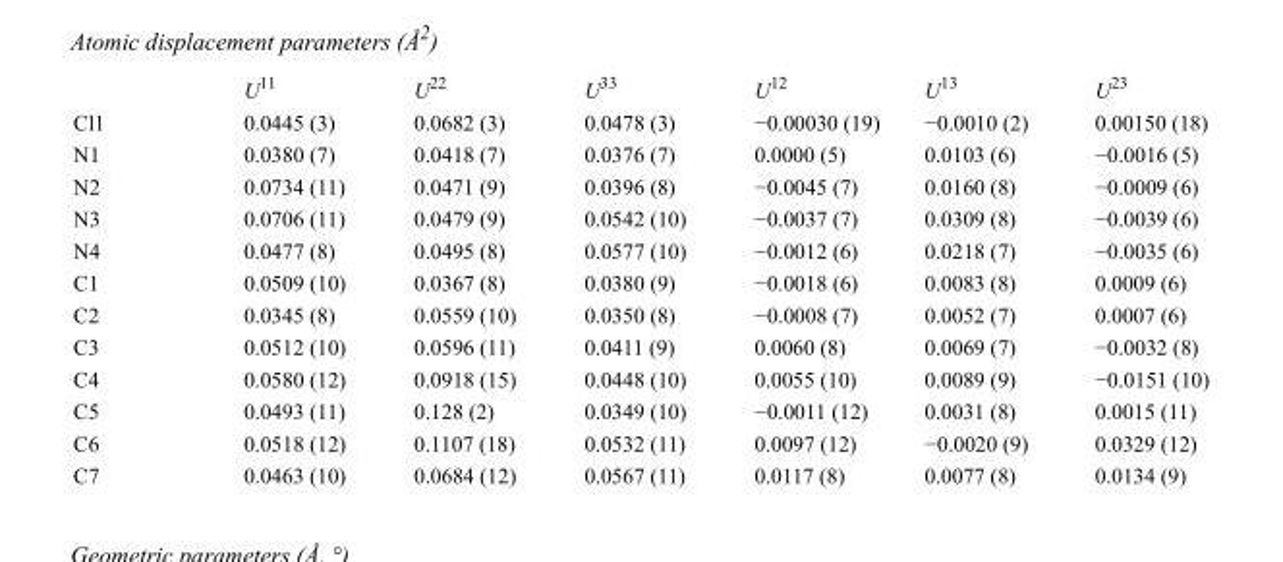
<table><thead><tr><td></td><td>U<sup>11</sup></td><td>U<sup>22</sup></td><td>U<sup>33</sup></td><td>U<sup>12</sup></td><td>U<sup>13</sup></td><td>U<sup>23</sup></td></tr></thead><tbody><tr><td>Cl1</td><td>0.0445 (3)</td><td>0.0682 (3)</td><td>0.0478 (3)</td><td>−0.00030 (19)</td><td>−0.0010 (2)</td><td>0.00150 (18)</td></tr><tr><td>N1</td><td>0.0380 (7)</td><td>0.0418 (7)</td><td>0.0376 (7)</td><td>0.0000 (5)</td><td>0.0103 (6)</td><td>−0.0016 (5)</td></tr><tr><td>N2</td><td>0.0734 (11)</td><td>0.0471 (9)</td><td>0.0396 (8)</td><td>−0.0045 (7)</td><td>0.0160 (8)</td><td>−0.0009 (6)</td></tr><tr><td>N3</td><td>0.0706 (11)</td><td>0.0479 (9)</td><td>0.0542 (10)</td><td>−0.0037 (7)</td><td>0.0309 (8)</td><td>−0.0039 (6)</td></tr><tr><td>N4</td><td>0.0477 (8)</td><td>0.0495 (8)</td><td>0.0577 (10)</td><td>−0.0012 (6)</td><td>0.0218 (7)</td><td>−0.0035 (6)</td></tr><tr><td>C1</td><td>0.0509 (10)</td><td>0.0367 (8)</td><td>0.0380 (9)</td><td>−0.0018 (6)</td><td>0.0083 (8)</td><td>0.0009 (6)</td></tr><tr><td>C2</td><td>0.0345 (8)</td><td>0.0559 (10)</td><td>0.0350 (8)</td><td>−0.0008 (7)</td><td>0.0052 (7)</td><td>0.0007 (6)</td></tr><tr><td>C3</td><td>0.0512 (10)</td><td>0.0596 (11)</td><td>0.0411 (9)</td><td>0.0060 (8)</td><td>0.0069 (7)</td><td>−0.0032 (8)</td></tr><tr><td>C4</td><td>0.0580 (12)</td><td>0.0918 (15)</td><td>0.0448 (10)</td><td>0.0055 (10)</td><td>0.0089 (9)</td><td>−0.0151 (10)</td></tr><tr><td>C5</td><td>0.0493 (11)</td><td>0.128 (2)</td><td>0.0349 (10)</td><td>−0.0011 (12)</td><td>0.0031 (8)</td><td>0.0015 (11)</td></tr><tr><td>C6</td><td>0.0518 (12)</td><td>0.1107 (18)</td><td>0.0532 (11)</td><td>0.0097 (12)</td><td>−0.0020 (9)</td><td>0.0329 (12)</td></tr><tr><td>C7</td><td>0.0463 (10)</td><td>0.0684 (12)</td><td>0.0567 (11)</td><td>0.0117 (8)</td><td>0.0077 (8)</td><td>0.0134 (9)</td></tr></tbody></table>